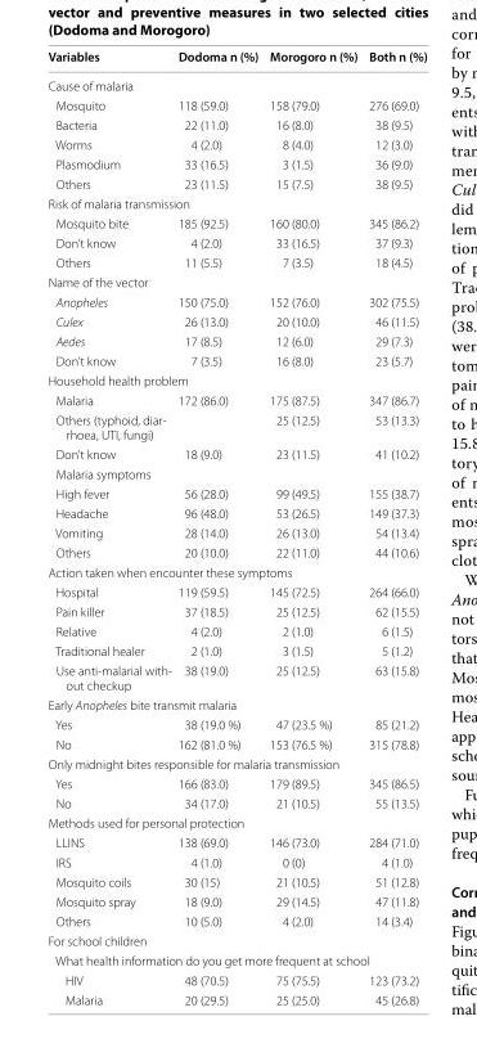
<table><thead><tr><td>Variables</td><td>Dodoma n (%)</td><td>Morogoro n (%)</td><td>Both n (%)</td></tr></thead><tbody><tr><td colspan="4">Cause of malaria</td></tr><tr><td>Mosquito</td><td>118 (59.0)</td><td>158 (79.0)</td><td>276 (69.0)</td></tr><tr><td>Bacteria</td><td>22 (11.0)</td><td>16 (8.0)</td><td>38 (9.5)</td></tr><tr><td>Worms</td><td>4 (2.0)</td><td>8 (4.0)</td><td>12 (3.0)</td></tr><tr><td>Plasmodium</td><td>33 (16.5)</td><td>3 (1.5)</td><td>36 (9.0)</td></tr><tr><td>Others</td><td>23 (11.5)</td><td>15 (7.5)</td><td>38 (9.5)</td></tr><tr><td colspan="4">Risk of malaria transmission</td></tr><tr><td>Mosquito bite</td><td>185 (92.5)</td><td>160 (80.0)</td><td>345 (86.2)</td></tr><tr><td>Don’t know</td><td>4 (2.0)</td><td>33 (16.5)</td><td>37 (9.3)</td></tr><tr><td>Others</td><td>11 (5.5)</td><td>7 (3.5)</td><td>18 (4.5)</td></tr><tr><td colspan="4">Name of the vector</td></tr><tr><td>Anopheles</td><td>150 (75.0)</td><td>152 (76.0)</td><td>302 (75.5)</td></tr><tr><td>Culex</td><td>26 (13.0)</td><td>20 (10.0)</td><td>46 (11.5)</td></tr><tr><td>Aedes</td><td>17 (8.5)</td><td>12 (6.0)</td><td>29 (7.3)</td></tr><tr><td>Don’t know</td><td>7 (3.5)</td><td>16 (8.0)</td><td>23 (5.7)</td></tr><tr><td colspan="4">Household health problem</td></tr><tr><td>Malaria</td><td>172 (86.0)</td><td>175 (87.5)</td><td>347 (86.7)</td></tr><tr><td>Others (typhoid, diar- rhoea, UTI, fungi)</td><td></td><td>25 (12.5)</td><td>53 (13.3)</td></tr><tr><td>Don’t know</td><td>18 (9.0)</td><td>23 (11.5)</td><td>41 (10.2)</td></tr><tr><td colspan="4">Malaria symptoms</td></tr><tr><td>High fever</td><td>56 (28.0)</td><td>99 (49.5)</td><td>155 (38.7)</td></tr><tr><td>Headache</td><td>96 (48.0)</td><td>53 (26.5)</td><td>149 (37.3)</td></tr><tr><td>Vomiting</td><td>28 (14.0)</td><td>26 (13.0)</td><td>54 (13.4)</td></tr><tr><td>Others</td><td>20 (10.0)</td><td>22 (11.0)</td><td>44 (10.6)</td></tr><tr><td colspan="4">Action taken when encounter these symptoms</td></tr><tr><td>Hospital</td><td>119 (59.5)</td><td>145 (72.5)</td><td>264 (66.0)</td></tr><tr><td>Pain killer</td><td>37 (18.5)</td><td>25 (12.5)</td><td>62 (15.5)</td></tr><tr><td>Relative</td><td>4 (2.0)</td><td>2 (1.0)</td><td>6 (1.5)</td></tr><tr><td>Traditional healer</td><td>2 (1.0)</td><td>3 (1.5)</td><td>5 (1.2)</td></tr><tr><td>Use anti-malarial with- out checkup</td><td>38 (19.0)</td><td>25 (12.5)</td><td>63 (15.8)</td></tr><tr><td colspan="4">Early Anopheles bite transmit malaria</td></tr><tr><td>Yes</td><td>38 (19.0 %)</td><td>47 (23.5 %)</td><td>85 (21.2)</td></tr><tr><td>No</td><td>162 (81.0 %)</td><td>153 (76.5 %)</td><td>315 (78.8)</td></tr><tr><td colspan="4">Only midnight bites responsible for malaria transmission</td></tr><tr><td>Yes</td><td>166 (83.0)</td><td>179 (89.5)</td><td>345 (86.5)</td></tr><tr><td>No</td><td>34 (17.0)</td><td>21 (10.5)</td><td>55 (13.5)</td></tr><tr><td colspan="4">Methods used for personal protection</td></tr><tr><td>LLINS</td><td>138 (69.0)</td><td>146 (73.0)</td><td>284 (71.0)</td></tr><tr><td>IRS</td><td>4 (1.0)</td><td>0 (0)</td><td>4 (1.0)</td></tr><tr><td>Mosquito coils</td><td>30 (15)</td><td>21 (10.5)</td><td>51 (12.8)</td></tr><tr><td>Mosquito spray</td><td>18 (9.0)</td><td>29 (14.5)</td><td>47 (11.8)</td></tr><tr><td>Others</td><td>10 (5.0)</td><td>4 (2.0)</td><td>14 (3.4)</td></tr><tr><td colspan="4">For school children</td></tr><tr><td colspan="4">What health information do you get more frequent at school</td></tr><tr><td>HIV</td><td>48 (70.5)</td><td>75 (75.5)</td><td>123 (73.2)</td></tr><tr><td>Malaria</td><td>20 (29.5)</td><td>25 (25.0)</td><td>45 (26.8)</td></tr></tbody></table>